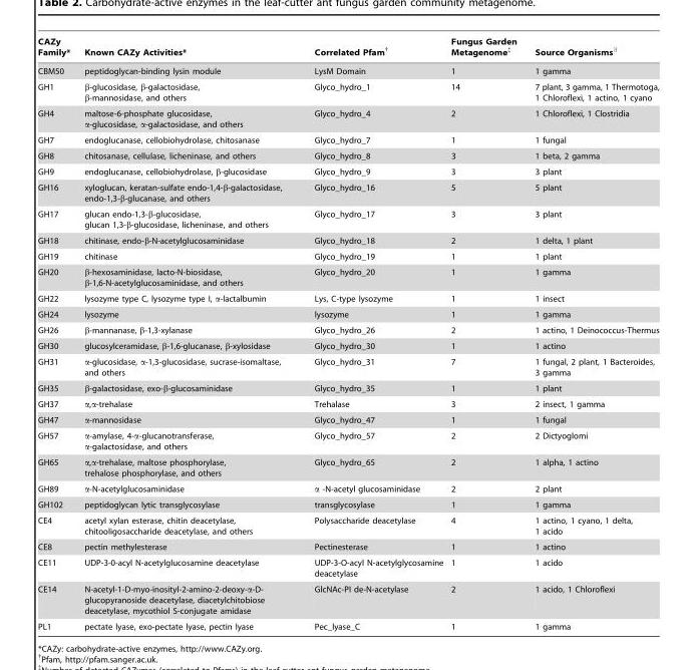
<table><thead><tr><td>CAZy Family*</td><td>Known CAZy Activities*</td><td>Correlated Pfam†</td><td>Fungus Garden Metagenome‡</td><td>Source Organisms<sup>∥</sup></td></tr></thead><tbody><tr><td>CBM50</td><td>peptidoglycan-binding lysin module</td><td>LysM Domain</td><td>1</td><td>1 gamma</td></tr><tr><td>GH1</td><td>β-glucosidase, β-galactosidase, β-mannosidase, and others</td><td>Glyco_hydro_1</td><td>14</td><td>7 plant, 3 gamma, 1 Thermotoga, 1 Chloroflexi, 1 actino, 1 cyano</td></tr><tr><td>GH4</td><td>maltose-6-phosphate glucosidase, α-glucosidase, α-galactosidase, and others</td><td>Glyco_hydro_4</td><td>2</td><td>1 Chloroflexi, 1 Clostridia</td></tr><tr><td>GH7</td><td>endoglucanase, cellobiohydrolase, chitosanase</td><td>Glyco_hydro_7</td><td>1</td><td>1 fungal</td></tr><tr><td>GH8</td><td>chitosanase, cellulase, licheninase, and others</td><td>Glyco_hydro_8</td><td>3</td><td>1 beta, 2 gamma</td></tr><tr><td>GH9</td><td>endoglucanase, cellobiohydrolase, β-glucosidase</td><td>Glyco_hydro_9</td><td>3</td><td>3 plant</td></tr><tr><td>GH16</td><td>xyloglucan, keratan-sulfate endo-1,4-β-galactosidase, endo-1,3-β-glucanase, and others</td><td>Glyco_hydro_16</td><td>5</td><td>5 plant</td></tr><tr><td>GH17</td><td>glucan endo-1,3-β-glucosidase, glucan 1,3-β-glucosidase, licheninase, and others</td><td>Glyco_hydro_17</td><td>3</td><td>3 plant</td></tr><tr><td>GH18</td><td>chitinase, endo-β-N-acetylglucosaminidase</td><td>Glyco_hydro_18</td><td>2</td><td>1 delta, 1 plant</td></tr><tr><td>GH19</td><td>chitinase</td><td>Glyco_hydro_19</td><td>1</td><td>1 plant</td></tr><tr><td>GH20</td><td>β-hexosaminidase, lacto-N-biosidase, β-1,6-N-acetylglucosaminidase, and others</td><td>Glyco_hydro_20</td><td>1</td><td>1 gamma</td></tr><tr><td>GH22</td><td>lysozyme type C, lysozyme type I, α-lactalbumin</td><td>Lys, C-type lysozyme</td><td>1</td><td>1 insect</td></tr><tr><td>GH24</td><td>lysozyme</td><td>lysozyme</td><td>1</td><td>1 gamma</td></tr><tr><td>GH26</td><td>β-mannanase, β-1,3-xylanase</td><td>Glyco_hydro_26</td><td>2</td><td>1 actino, 1 Deinococcus-Thermus</td></tr><tr><td>GH30</td><td>glucosylceramidase, β-1,6-glucanase, β-xylosidase</td><td>Glyco_hydro_30</td><td>1</td><td>1 actino</td></tr><tr><td>GH31</td><td>α-glucosidase, α-1,3-glucosidase, sucrase-isomaltase, and others</td><td>Glyco_hydro_31</td><td>7</td><td>1 fungal, 2 plant, 1 Bacteroides, 3 gamma</td></tr><tr><td>GH35</td><td>β-galactosidase, exo-β-glucosaminidase</td><td>Glyco_hydro_35</td><td>1</td><td>1 plant</td></tr><tr><td>GH37</td><td>α,α-trehalase</td><td>Trehalase</td><td>3</td><td>2 insect, 1 gamma</td></tr><tr><td>GH47</td><td>α-mannosidase</td><td>Glyco_hydro_47</td><td>1</td><td>1 fungal</td></tr><tr><td>GH57</td><td>α-amylase, 4-α-glucanotransferase, α-galactosidase, and others</td><td>Glyco_hydro_57</td><td>2</td><td>2 Dictyoglomi</td></tr><tr><td>GH65</td><td>α,α-trehalase, maltose phosphorylase, trehalose phosphorylase, and others</td><td>Glyco_hydro_65</td><td>2</td><td>1 alpha, 1 actino</td></tr><tr><td>GH89</td><td>α-N-acetylglucosaminidase</td><td>α -N-acetyl glucosaminidase</td><td>2</td><td>2 plant</td></tr><tr><td>GH102</td><td>peptidoglycan lytic transglycosylase</td><td>transglycosylase</td><td>1</td><td>1 gamma</td></tr><tr><td>CE4</td><td>acetyl xylan esterase, chitin deacetylase, chitooligosaccharide deacetylase, and others</td><td>Polysaccharide deacetylase</td><td>4</td><td>1 actino, 1 cyano, 1 delta, 1 acido</td></tr><tr><td>CE8</td><td>pectin methylesterase</td><td>Pectinesterase</td><td>1</td><td>1 actino</td></tr><tr><td>CE11</td><td>UDP-3-0-acyl N-acetylglucosamine deacetylase</td><td>UDP-3-O-acyl N-acetylglycosamine deacetylase</td><td>1</td><td>1 acido</td></tr><tr><td>CE14</td><td>N-acetyl-1-D-myo-inosityl-2-amino-2-deoxy-α-D- glucopyranoside deacetylase, diacetylchitobiose deacetylase, mycothiol S-conjugate amidase</td><td>GlcNAc-PI de-N-acetylase</td><td>2</td><td>1 acido, 1 Chloroflexi</td></tr><tr><td>PL1</td><td>pectate lyase, exo-pectate lyase, pectin lyase</td><td>Pec_lyase_C</td><td>1</td><td>1 gamma</td></tr></tbody></table>